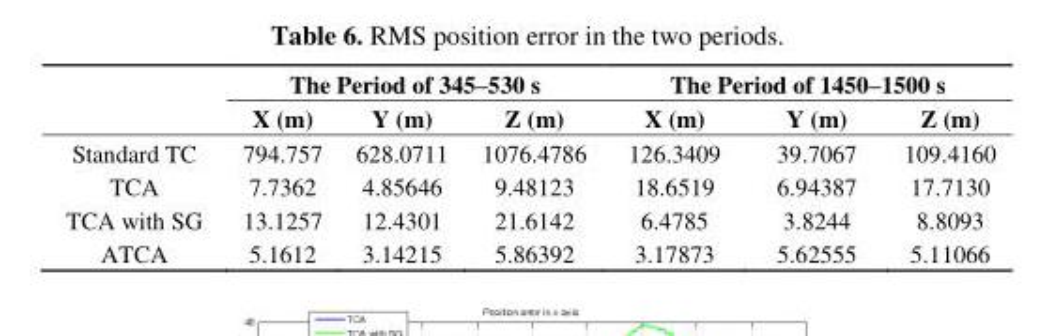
<table><thead><tr><td rowspan="2"></td><td colspan="3">The Period of 345–530 s</td><td colspan="3">The Period of 1450–1500 s</td></tr><tr><td>X (m)</td><td>Y (m)</td><td>Z (m)</td><td>X (m)</td><td>Y (m)</td><td>Z (m)</td></tr></thead><tbody><tr><td>Standard TC</td><td>794.757</td><td>628.0711</td><td>1076.4786</td><td>126.3409</td><td>39.7067</td><td>109.4160</td></tr><tr><td>TCA</td><td>7.7362</td><td>4.85646</td><td>9.48123</td><td>18.6519</td><td>6.94387</td><td>17.7130</td></tr><tr><td>TCA with SG</td><td>13.1257</td><td>12.4301</td><td>21.6142</td><td>6.4785</td><td>3.8244</td><td>8.8093</td></tr><tr><td>ATCA</td><td>5.1612</td><td>3.14215</td><td>5.86392</td><td>3.17873</td><td>5.62555</td><td>5.11066</td></tr></tbody></table>